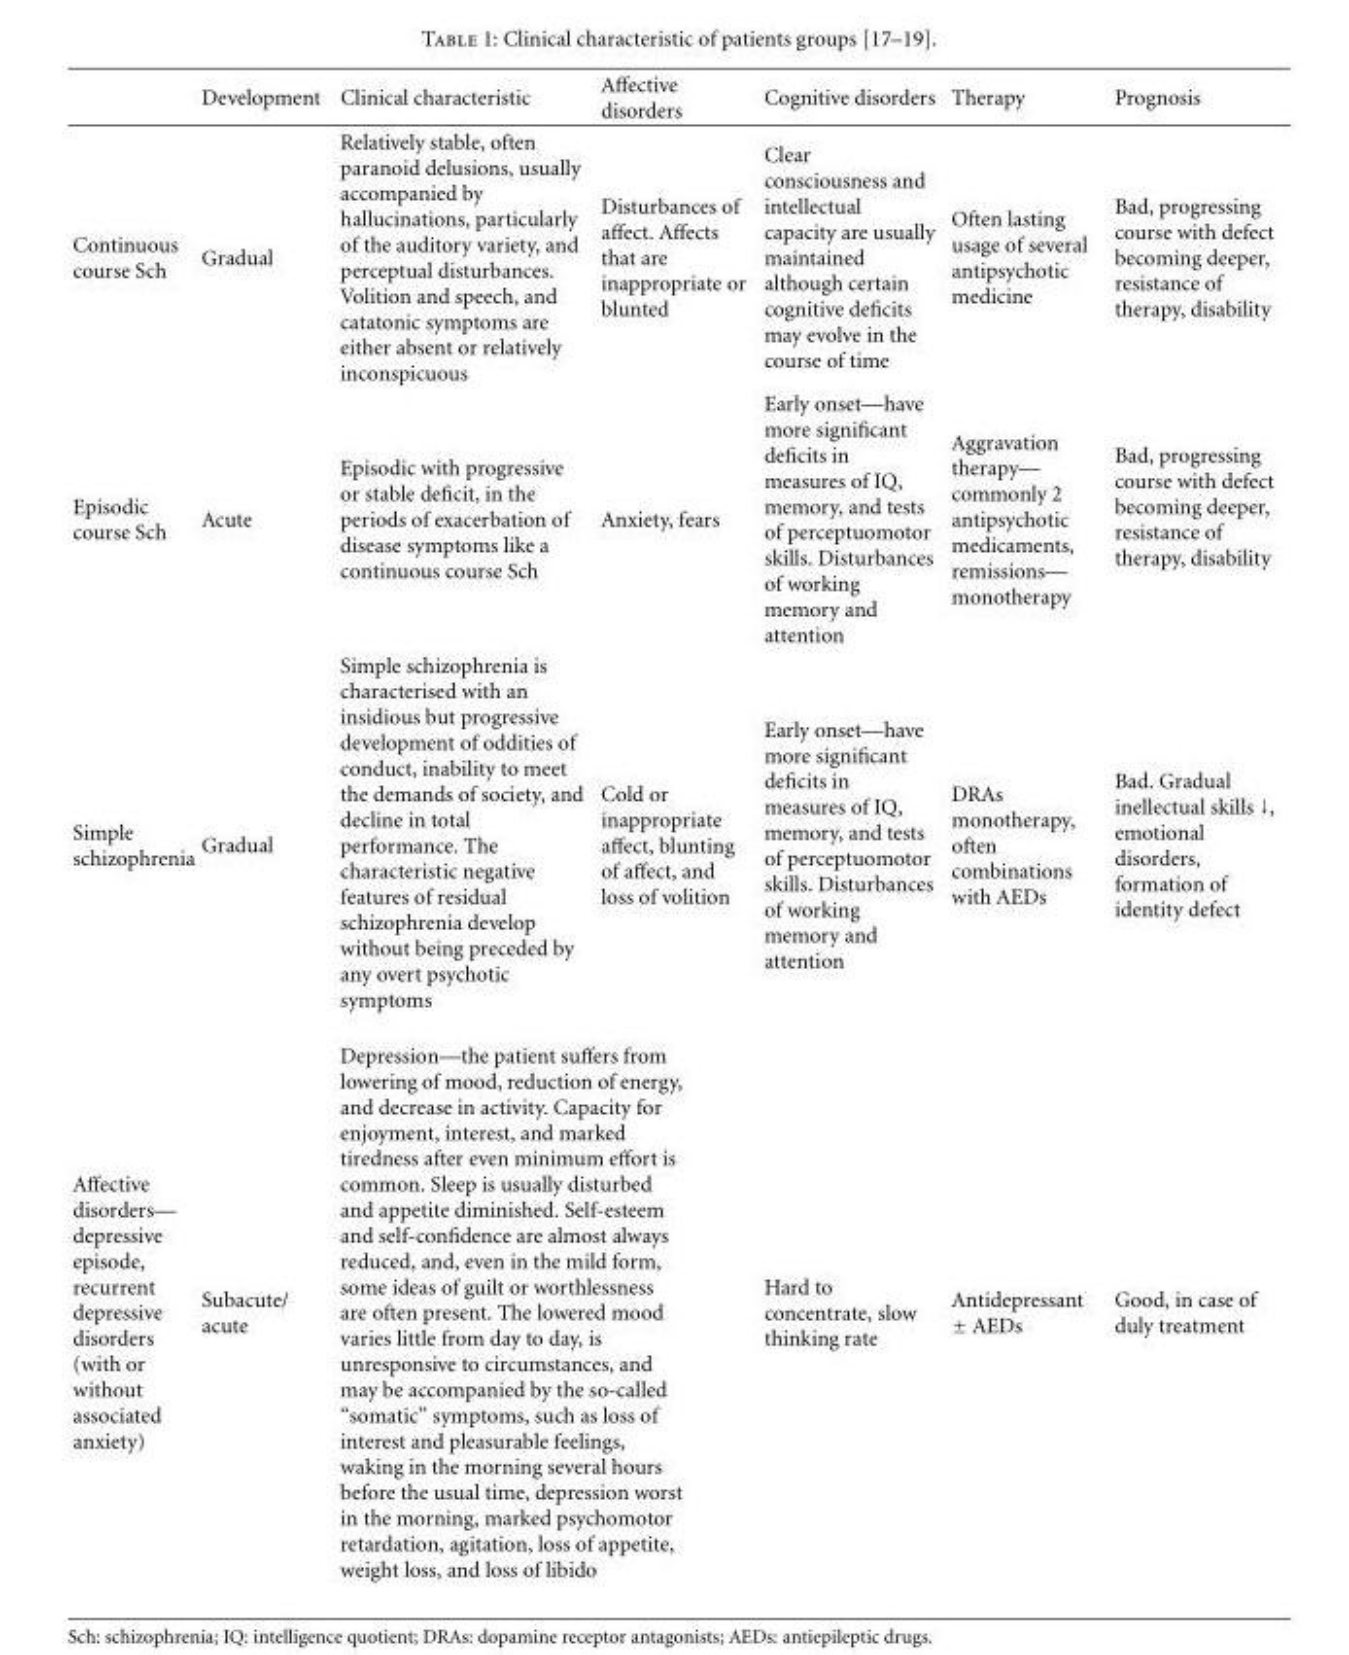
<table><thead><tr><td></td><td>Development</td><td>Clinical characteristic</td><td>Affective disorders</td><td>Cognitive disorders</td><td>Therapy</td><td>Prognosis</td></tr></thead><tbody><tr><td>Continuous course Sch</td><td>Gradual</td><td>Relatively stable, often paranoid delusions, usually accompanied by hallucinations, particularly of the auditory variety, and perceptual disturbances. Volition and speech, and catatonic symptoms are either absent or relatively inconspicuous</td><td>Disturbances of affect. Affects that are inappropriate or blunted</td><td>Clear consciousness and intellectual capacity are usually maintained although certain cognitive deficits may evolve in the course of time</td><td>Often lasting usage of several antipsychotic medicine</td><td>Bad, progressing course with defect becoming deeper, resistance of therapy, disability</td></tr><tr><td>Episodic course Sch</td><td>Acute</td><td>Episodic with progressive or stable deficit, in the periods of exacerbation of disease symptoms like a continuous course Sch</td><td>Anxiety, fears</td><td>Early onset—have more significant deficits in measures of IQ, memory, and tests of perceptuomotor skills. Disturbances of working memory and attention</td><td>Aggravation therapy— commonly 2 antipsychotic medicaments, remissions— monotherapy</td><td>Bad, progressing course with defect becoming deeper, resistance of therapy, disability</td></tr><tr><td>Simple schizophrenia</td><td>Gradual</td><td>Simple schizophrenia is characterised with an insidious but progressive development of oddities of conduct, inability to meet the demands of society, and decline in total performance. The characteristic negative features of residual schizophrenia develop without being preceded by any overt psychotic symptoms</td><td>Cold or inappropriate affect, blunting of affect, and loss of volition</td><td>Early onset—have more significant deficits in measures of IQ, memory, and tests of perceptuomotor skills. Disturbances of working memory and attention</td><td>DRAs monotherapy, often combinations with AEDs</td><td>Bad. Gradual inellectual skills ↓, emotional disorders, formation of identity defect</td></tr><tr><td>Affective disorders— depressive episode, recurrent depressive disorders (with or without associated anxiety)</td><td>Subacute/ acute</td><td colspan="2">Depression—the patient suffers from lowering of mood, reduction of energy, and decrease in activity. Capacity for enjoyment, interest, and marked tiredness after even minimum effort is common. Sleep is usually disturbed and appetite diminished. Self-esteem and self-confidence are almost always reduced, and, even in the mild form, some ideas of guilt or worthlessness are often present. The lowered mood varies little from day to day, is unresponsive to circumstances, and may be accompanied by the so-called “somatic” symptoms, such as loss of interest and pleasurable feelings, waking in the morning several hours before the usual time, depression worst in the morning, marked psychomotor retardation, agitation, loss of appetite, weight loss, and loss of libido</td><td>Hard to concentrate, slow thinking rate</td><td>Antidepressant ± AEDs</td><td>Good, in case of duly treatment</td></tr></tbody></table>